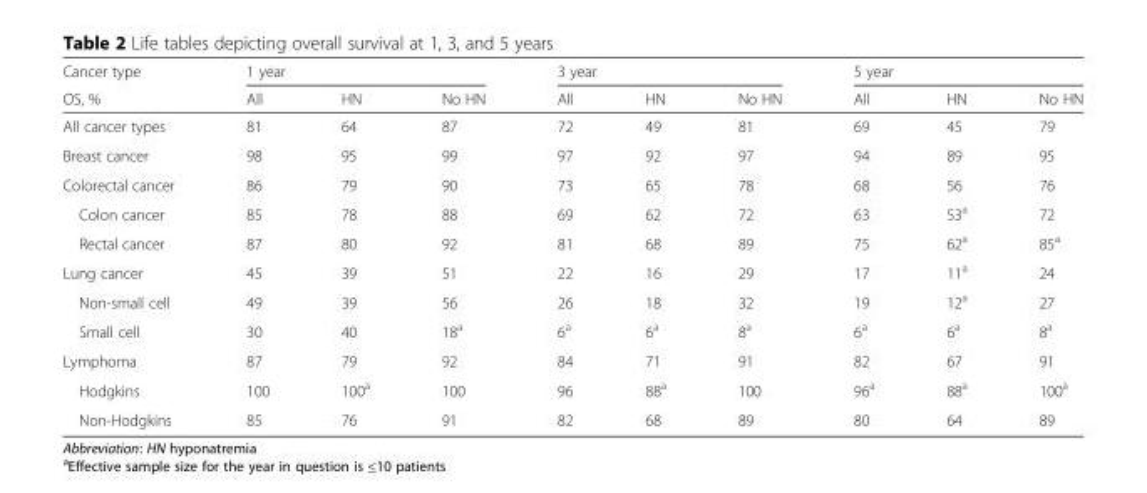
<table><thead><tr><td rowspan="2">Cancer type OS, %</td><td colspan="3">1 year</td><td colspan="3">3 year</td><td colspan="3">5 year</td></tr><tr><td>All</td><td>HN</td><td>No HN</td><td>All</td><td>HN</td><td>No HN</td><td>All</td><td>HN</td><td>No HN</td></tr></thead><tbody><tr><td>All cancer types</td><td>81</td><td>64</td><td>87</td><td>72</td><td>49</td><td>81</td><td>69</td><td>45</td><td>79</td></tr><tr><td>Breast cancer</td><td>98</td><td>95</td><td>99</td><td>97</td><td>92</td><td>97</td><td>94</td><td>89</td><td>95</td></tr><tr><td>Colorectal cancer</td><td>86</td><td>79</td><td>90</td><td>73</td><td>65</td><td>78</td><td>68</td><td>56</td><td>76</td></tr><tr><td>Colon cancer</td><td>85</td><td>78</td><td>88</td><td>69</td><td>62</td><td>72</td><td>63</td><td>53<sup>a</sup></td><td>72</td></tr><tr><td>Rectal cancer</td><td>87</td><td>80</td><td>92</td><td>81</td><td>68</td><td>89</td><td>75</td><td>62<sup>a</sup></td><td>85<sup>a</sup></td></tr><tr><td>Lung cancer</td><td>45</td><td>39</td><td>51</td><td>22</td><td>16</td><td>29</td><td>17</td><td>11<sup>a</sup></td><td>24</td></tr><tr><td>Non-small cell</td><td>49</td><td>39</td><td>56</td><td>26</td><td>18</td><td>32</td><td>19</td><td>12<sup>a</sup></td><td>27</td></tr><tr><td>Small cell</td><td>30</td><td>40</td><td>18<sup>a</sup></td><td>6<sup>a</sup></td><td>6<sup>a</sup></td><td>8<sup>a</sup></td><td>6<sup>a</sup></td><td>6<sup>a</sup></td><td>8<sup>a</sup></td></tr><tr><td>Lymphoma</td><td>87</td><td>79</td><td>92</td><td>84</td><td>71</td><td>91</td><td>82</td><td>67</td><td>91</td></tr><tr><td>Hodgkins</td><td>100</td><td>100<sup>a</sup></td><td>100</td><td>96</td><td>88<sup>a</sup></td><td>100</td><td>96<sup>a</sup></td><td>88<sup>a</sup></td><td>100<sup>a</sup></td></tr><tr><td>Non-Hodgkins</td><td>85</td><td>76</td><td>91</td><td>82</td><td>68</td><td>89</td><td>80</td><td>64</td><td>89</td></tr></tbody></table>